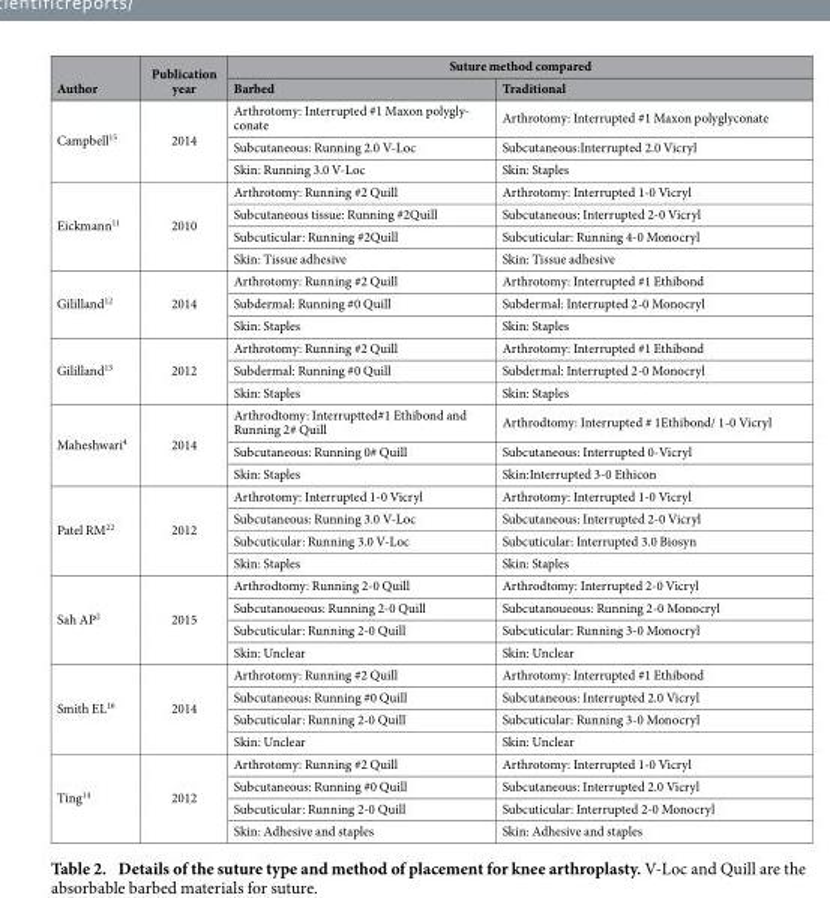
<table><thead><tr><td rowspan="2">Author</td><td rowspan="2">Publication year</td><td colspan="2">Suture method compared</td></tr><tr><td>Barbed</td><td>Traditional</td></tr></thead><tbody><tr><td rowspan="3">Campbell<sup>15</sup></td><td rowspan="3">2014</td><td>Arthrotomy: Interrupted #1 Maxon polygly- conate</td><td>Arthrotomy: Interrupted #1 Maxon polyglyconate</td></tr><tr><td>Subcutaneous: Running 2.0 V-Loc</td><td>Subcutaneous:Interrupted 2.0 Vicryl</td></tr><tr><td>Skin: Running 3.0 V-Loc</td><td>Skin: Staples</td></tr><tr><td rowspan="4">Eickmann<sup>11</sup></td><td rowspan="4">2010</td><td>Arthrotomy: Running #2 Quill</td><td>Arthrotomy: Interrupted 1-0 Vicryl</td></tr><tr><td>Subcutaneous tissue: Running #2Quill</td><td>Subcutaneous: Interrupted 2-0 Vicryl</td></tr><tr><td>Subcuticular: Running #2Quill</td><td>Subcuticular: Running 4-0 Monocryl</td></tr><tr><td>Skin: Tissue adhesive</td><td>Skin: Tissue adhesive</td></tr><tr><td rowspan="3">Gililland<sup>12</sup></td><td rowspan="3">2014</td><td>Arthrotomy: Running #2 Quill</td><td>Arthrotomy: Interrupted #1 Ethibond</td></tr><tr><td>Subdermal: Running #0 Quill</td><td>Subdermal: Interrupted 2-0 Monocryl</td></tr><tr><td>Skin: Staples</td><td>Skin: Staples</td></tr><tr><td rowspan="3">Gililland<sup>13</sup></td><td rowspan="3">2012</td><td>Arthrotomy: Running #2 Quill</td><td>Arthrotomy: Interrupted #1 Ethibond</td></tr><tr><td>Subdermal: Running #0 Quill</td><td>Subdermal: Interrupted 2-0 Monocryl</td></tr><tr><td>Skin: Staples</td><td>Skin: Staples</td></tr><tr><td rowspan="3">Maheshwari<sup>4</sup></td><td rowspan="3">2014</td><td>Arthrodtomy: Interruptted#1 Ethibond and Running 2# Quill</td><td>Arthrodtomy: Interrupted # 1Ethibond/ 1-0 Vicryl</td></tr><tr><td>Subcutaneous: Running 0# Quill</td><td>Subcutaneous: Interrupted 0-Vicryl</td></tr><tr><td>Skin: Staples</td><td>Skin:Interrupted 3-0 Ethicon</td></tr><tr><td rowspan="4">Patel RM<sup>22</sup></td><td rowspan="4">2012</td><td>Arthrotomy: Interrupted 1-0 Vicryl</td><td>Arthrotomy: Interrupted 1-0 Vicryl</td></tr><tr><td>Subcutaneous: Running 3.0 V-Loc</td><td>Subcutaneous: Interrupted 2-0 Vicryl</td></tr><tr><td>Subcuticular: Running 3.0 V-Loc</td><td>Subcuticular: Interrupted 3.0 Biosyn</td></tr><tr><td>Skin: Staples</td><td>Skin: Staples</td></tr><tr><td rowspan="4">Sah AP<sup>2</sup></td><td rowspan="4">2015</td><td>Arthrodtomy: Running 2-0 Quill</td><td>Arthrodtomy: Interrupted 2-0 Vicryl</td></tr><tr><td>Subcutanoueous: Running 2-0 Quill</td><td>Subcutanoueous: Running 2-0 Monocryl</td></tr><tr><td>Subcuticular: Running 2-0 Quill</td><td>Subcuticular: Running 3-0 Monocryl</td></tr><tr><td>Skin: Unclear</td><td>Skin: Unclear</td></tr><tr><td rowspan="4">Smith EL<sup>16</sup></td><td rowspan="4">2014</td><td>Arthrotomy: Running #2 Quill</td><td>Arthrotomy: Interrupted #1 Ethibond</td></tr><tr><td>Subcutaneous: Running #0 Quill</td><td>Subcutaneous: Interrupted 2.0 Vicryl</td></tr><tr><td>Subcuticular: Running 2-0 Quill</td><td>Subcuticular: Running 3-0 Monocryl</td></tr><tr><td>Skin: Unclear</td><td>Skin: Unclear</td></tr><tr><td rowspan="4">Ting<sup>14</sup></td><td rowspan="4">2012</td><td>Arthrotomy: Running #2 Quill</td><td>Arthrotomy: Interrupted 1-0 Vicryl</td></tr><tr><td>Subcutaneous: Running #0 Quill</td><td>Subcutaneous: Interrupted 2.0 Vicryl</td></tr><tr><td>Subcuticular: Running 2-0 Quill</td><td>Subcuticular: Interrupted 2-0 Monocryl</td></tr><tr><td>Skin: Adhesive and staples</td><td>Skin: Adhesive and staples</td></tr></tbody></table>